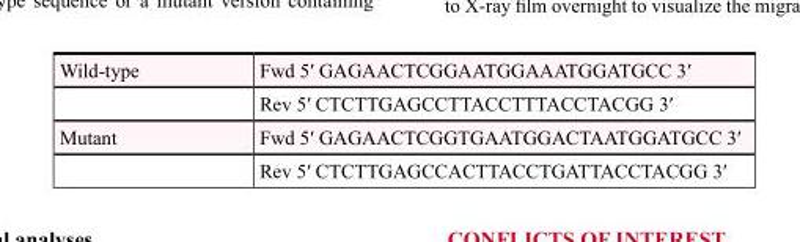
<table><tbody><tr><td rowspan="2">Wild-type</td><td>Fwd 5′ GAGAACTCGGAATGGAAATGGATGCC 3′</td></tr><tr><td>Rev 5′ CTCTTGAGCCTTACCTTTACCTACGG 3′</td></tr><tr><td rowspan="2">Mutant</td><td>Fwd 5′ GAGAACTCGGTGAATGGACTAATGGATGCC 3′</td></tr><tr><td>Rev 5′ CTCTTGAGCCACTTACCTGATTACCTACGG 3′</td></tr></tbody></table>